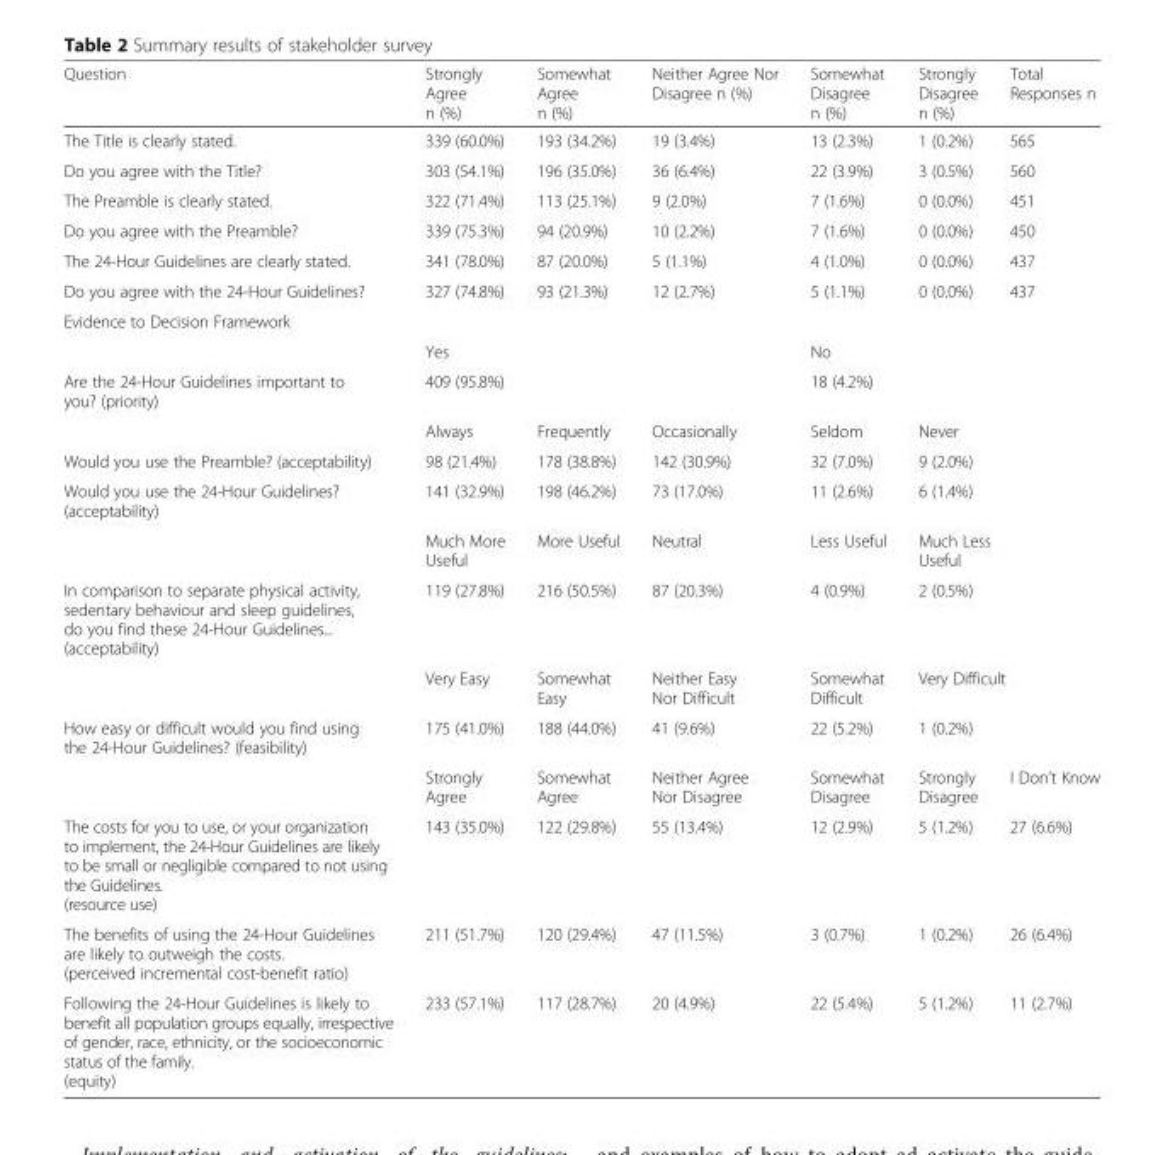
<table><thead><tr><td>Question</td><td>Strongly Agree n (%)</td><td>Somewhat Agree n (%)</td><td>Neither Agree Nor Disagree n (%)</td><td>Somewhat Disagree n (%)</td><td>Strongly Disagree n (%)</td><td>Total Responses n</td></tr></thead><tbody><tr><td>The Title is clearly stated.</td><td>339 (60.0%)</td><td>193 (34.2%)</td><td>19 (3.4%)</td><td>13 (2.3%)</td><td>1 (0.2%)</td><td>565</td></tr><tr><td>Do you agree with the Title?</td><td>303 (54.1%)</td><td>196 (35.0%)</td><td>36 (6.4%)</td><td>22 (3.9%)</td><td>3 (0.5%)</td><td>560</td></tr><tr><td>The Preamble is clearly stated.</td><td>322 (71.4%)</td><td>113 (25.1%)</td><td>9 (2.0%)</td><td>7 (1.6%)</td><td>0 (0.0%)</td><td>451</td></tr><tr><td>Do you agree with the Preamble?</td><td>339 (75.3%)</td><td>94 (20.9%)</td><td>10 (2.2%)</td><td>7 (1.6%)</td><td>0 (0.0%)</td><td>450</td></tr><tr><td>The 24-Hour Guidelines are clearly stated.</td><td>341 (78.0%)</td><td>87 (20.0%)</td><td>5 (1.1%)</td><td>4 (1.0%)</td><td>0 (0.0%)</td><td>437</td></tr><tr><td>Do you agree with the 24-Hour Guidelines?</td><td>327 (74.8%)</td><td>93 (21.3%)</td><td>12 (2.7%)</td><td>5 (1.1%)</td><td>0 (0.0%)</td><td>437</td></tr><tr><td colspan="7">Evidence to Decision Framework</td></tr><tr><td></td><td colspan="3">Yes</td><td colspan="3">No</td></tr><tr><td rowspan="2">Are the 24-Hour Guidelines important to you? (priority)</td><td colspan="3">409 (95.8%)</td><td colspan="3">18 (4.2%)</td></tr><tr><td>Always</td><td>Frequently</td><td>Occasionally</td><td>Seldom</td><td colspan="2">Never</td></tr><tr><td>Would you use the Preamble? (acceptability)</td><td>98 (21.4%)</td><td>178 (38.8%)</td><td>142 (30.9%)</td><td>32 (7.0%)</td><td colspan="2">9 (2.0%)</td></tr><tr><td rowspan="2">Would you use the 24-Hour Guidelines? (acceptability)</td><td>141 (32.9%)</td><td>198 (46.2%)</td><td>73 (17.0%)</td><td>11 (2.6%)</td><td colspan="2">6 (1.4%)</td></tr><tr><td>Much More Useful</td><td>More Useful</td><td>Neutral</td><td>Less Useful</td><td colspan="2">Much Less Useful</td></tr><tr><td rowspan="2">In comparison to separate physical activity, sedentary behaviour and sleep guidelines, do you find these 24-Hour Guidelines... (acceptability)</td><td>119 (27.8%)</td><td>216 (50.5%)</td><td>87 (20.3%)</td><td>4 (0.9%)</td><td colspan="2">2 (0.5%)</td></tr><tr><td>Very Easy</td><td>Somewhat Easy</td><td>Neither Easy Nor Difficult</td><td>Somewhat Difficult</td><td colspan="2">Very Difficult</td></tr><tr><td rowspan="2">How easy or difficult would you find using the 24-Hour Guidelines? (feasibility)</td><td>175 (41.0%)</td><td>188 (44.0%)</td><td>41 (9.6%)</td><td>22 (5.2%)</td><td colspan="2">1 (0.2%)</td></tr><tr><td>Strongly Agree</td><td>Somewhat Agree</td><td>Neither Agree Nor Disagree</td><td>Somewhat Disagree</td><td>Strongly Disagree</td><td>I Don’t Know</td></tr><tr><td>The costs for you to use, or your organization to implement, the 24-Hour Guidelines are likely to be small or negligible compared to not using the Guidelines. (resource use)</td><td>143 (35.0%)</td><td>122 (29.8%)</td><td>55 (13.4%)</td><td>12 (2.9%)</td><td>5 (1.2%)</td><td>27 (6.6%)</td></tr><tr><td>The benefits of using the 24-Hour Guidelines are likely to outweigh the costs. (perceived incremental cost-benefit ratio)</td><td>211 (51.7%)</td><td>120 (29.4%)</td><td>47 (11.5%)</td><td>3 (0.7%)</td><td>1 (0.2%)</td><td>26 (6.4%)</td></tr><tr><td>Following the 24-Hour Guidelines is likely to benefit all population groups equally, irrespective of gender, race, ethnicity, or the socioeconomic status of the family. (equity)</td><td>233 (57.1%)</td><td>117 (28.7%)</td><td>20 (4.9%)</td><td>22 (5.4%)</td><td>5 (1.2%)</td><td>11 (2.7%)</td></tr></tbody></table>